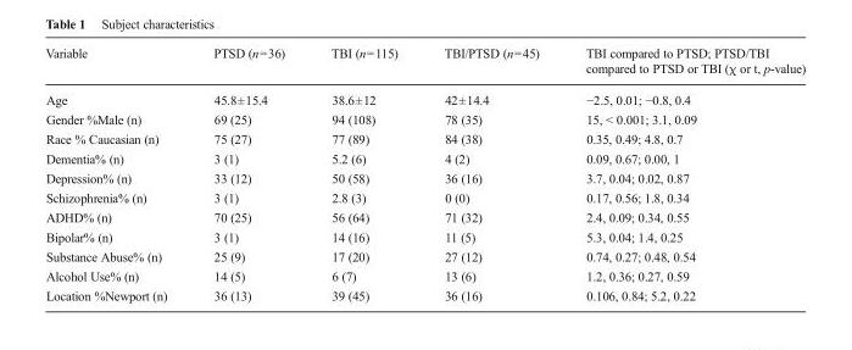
<table><thead><tr><td>Variable</td><td>PTSD (n=36)</td><td>TBI (n=115)</td><td>TBI/PTSD (n=45)</td><td>TBI compared to PTSD; PTSD/TBI compared to PTSD or TBI (χ or t, p-value)</td></tr></thead><tbody><tr><td>Age</td><td>45.8±15.4</td><td>38.6±12</td><td>42±14.4</td><td>−2.5, 0.01; −0.8, 0.4</td></tr><tr><td>Gender %Male (n)</td><td>69 (25)</td><td>94 (108)</td><td>78 (35)</td><td>15, &lt; 0.001; 3.1, 0.09</td></tr><tr><td>Race % Caucasian (n)</td><td>75 (27)</td><td>77 (89)</td><td>84 (38)</td><td>0.35, 0.49; 4.8, 0.7</td></tr><tr><td>Dementia% (n)</td><td>3 (1)</td><td>5.2 (6)</td><td>4 (2)</td><td>0.09, 0.67; 0.00, 1</td></tr><tr><td>Depression% (n)</td><td>33 (12)</td><td>50 (58)</td><td>36 (16)</td><td>3.7, 0.04; 0.02, 0.87</td></tr><tr><td>Schizophrenia% (n)</td><td>3 (1)</td><td>2.8 (3)</td><td>0 (0)</td><td>0.17, 0.56; 1.8, 0.34</td></tr><tr><td>ADHD% (n)</td><td>70 (25)</td><td>56 (64)</td><td>71 (32)</td><td>2.4, 0.09; 0.34, 0.55</td></tr><tr><td>Bipolar% (n)</td><td>3 (1)</td><td>14 (16)</td><td>11 (5)</td><td>5.3, 0.04; 1.4, 0.25</td></tr><tr><td>Substance Abuse% (n)</td><td>25 (9)</td><td>17 (20)</td><td>27 (12)</td><td>0.74, 0.27; 0.48, 0.54</td></tr><tr><td>Alcohol Use% (n)</td><td>14 (5)</td><td>6 (7)</td><td>13 (6)</td><td>1.2, 0.36; 0.27, 0.59</td></tr><tr><td>Location %Newport (n)</td><td>36 (13)</td><td>39 (45)</td><td>36 (16)</td><td>0.106, 0.84; 5.2, 0.22</td></tr></tbody></table>